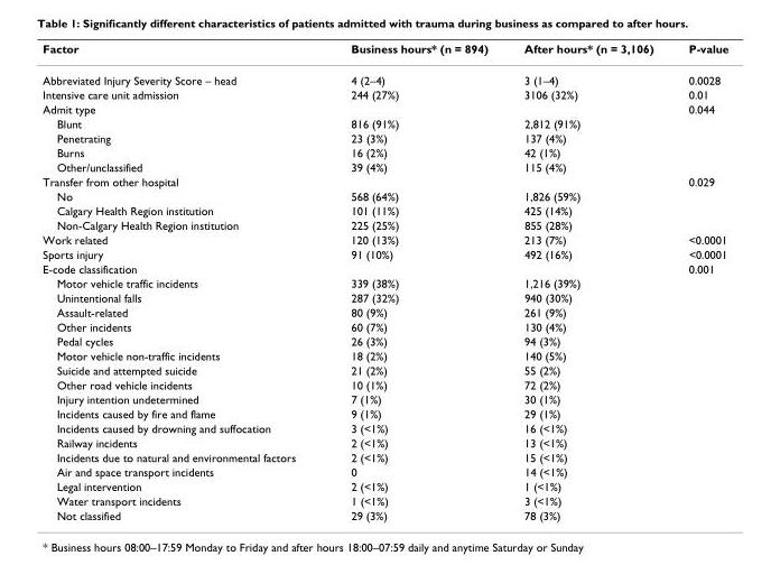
<table><thead><tr><td>Factor</td><td>Business hours* (n = 894)</td><td>After hours* (n = 3,106)</td><td>P-value</td></tr></thead><tbody><tr><td>Abbreviated Injury Severity Score – head</td><td>4 (2–4)</td><td>3 (1–4)</td><td>0.0028</td></tr><tr><td>Intensive care unit admission</td><td>244 (27%)</td><td>3106 (32%)</td><td>0.01</td></tr><tr><td>Admit type</td><td></td><td></td><td>0.044</td></tr><tr><td>Blunt</td><td>816 (91%)</td><td>2,812 (91%)</td><td></td></tr><tr><td>Penetrating</td><td>23 (3%)</td><td>137 (4%)</td><td></td></tr><tr><td>Burns</td><td>16 (2%)</td><td>42 (1%)</td><td></td></tr><tr><td>Other/unclassified</td><td>39 (4%)</td><td>115 (4%)</td><td></td></tr><tr><td>Transfer from other hospital</td><td></td><td></td><td>0.029</td></tr><tr><td>No</td><td>568 (64%)</td><td>1,826 (59%)</td><td></td></tr><tr><td>Calgary Health Region institution</td><td>101 (11%)</td><td>425 (14%)</td><td></td></tr><tr><td>Non-Calgary Health Region institution</td><td>225 (25%)</td><td>855 (28%)</td><td></td></tr><tr><td>Work related</td><td>120 (13%)</td><td>213 (7%)</td><td>&lt;0.0001</td></tr><tr><td>Sports injury</td><td>91 (10%)</td><td>492 (16%)</td><td>&lt;0.0001</td></tr><tr><td>E-code classification</td><td></td><td></td><td>0.001</td></tr><tr><td>Motor vehicle traffic incidents</td><td>339 (38%)</td><td>1,216 (39%)</td><td></td></tr><tr><td>Unintentional falls</td><td>287 (32%)</td><td>940 (30%)</td><td></td></tr><tr><td>Assault-related</td><td>80 (9%)</td><td>261 (9%)</td><td></td></tr><tr><td>Other incidents</td><td>60 (7%)</td><td>130 (4%)</td><td></td></tr><tr><td>Pedal cycles</td><td>26 (3%)</td><td>94 (3%)</td><td></td></tr><tr><td>Motor vehicle non-traffic incidents</td><td>18 (2%)</td><td>140 (5%)</td><td></td></tr><tr><td>Suicide and attempted suicide</td><td>21 (2%)</td><td>55 (2%)</td><td></td></tr><tr><td>Other road vehicle incidents</td><td>10 (1%)</td><td>72 (2%)</td><td></td></tr><tr><td>Injury intention undetermined</td><td>7 (1%)</td><td>30 (1%)</td><td></td></tr><tr><td>Incidents caused by fire and flame</td><td>9 (1%)</td><td>29 (1%)</td><td></td></tr><tr><td>Incidents caused by drowning and suffocation</td><td>3 (&lt;1%)</td><td>16 (&lt;1%)</td><td></td></tr><tr><td>Railway incidents</td><td>2 (&lt;1%)</td><td>13 (&lt;1%)</td><td></td></tr><tr><td>Incidents due to natural and environmental factors</td><td>2 (&lt;1%)</td><td>15 (&lt;1%)</td><td></td></tr><tr><td>Air and space transport incidents</td><td>0</td><td>14 (&lt;1%)</td><td></td></tr><tr><td>Legal intervention</td><td>2 (&lt;1%)</td><td>1 (&lt;1%)</td><td></td></tr><tr><td>Water transport incidents</td><td>1 (&lt;1%)</td><td>3 (&lt;1%)</td><td></td></tr><tr><td>Not classified</td><td>29 (3%)</td><td>78 (3%)</td><td></td></tr></tbody></table>